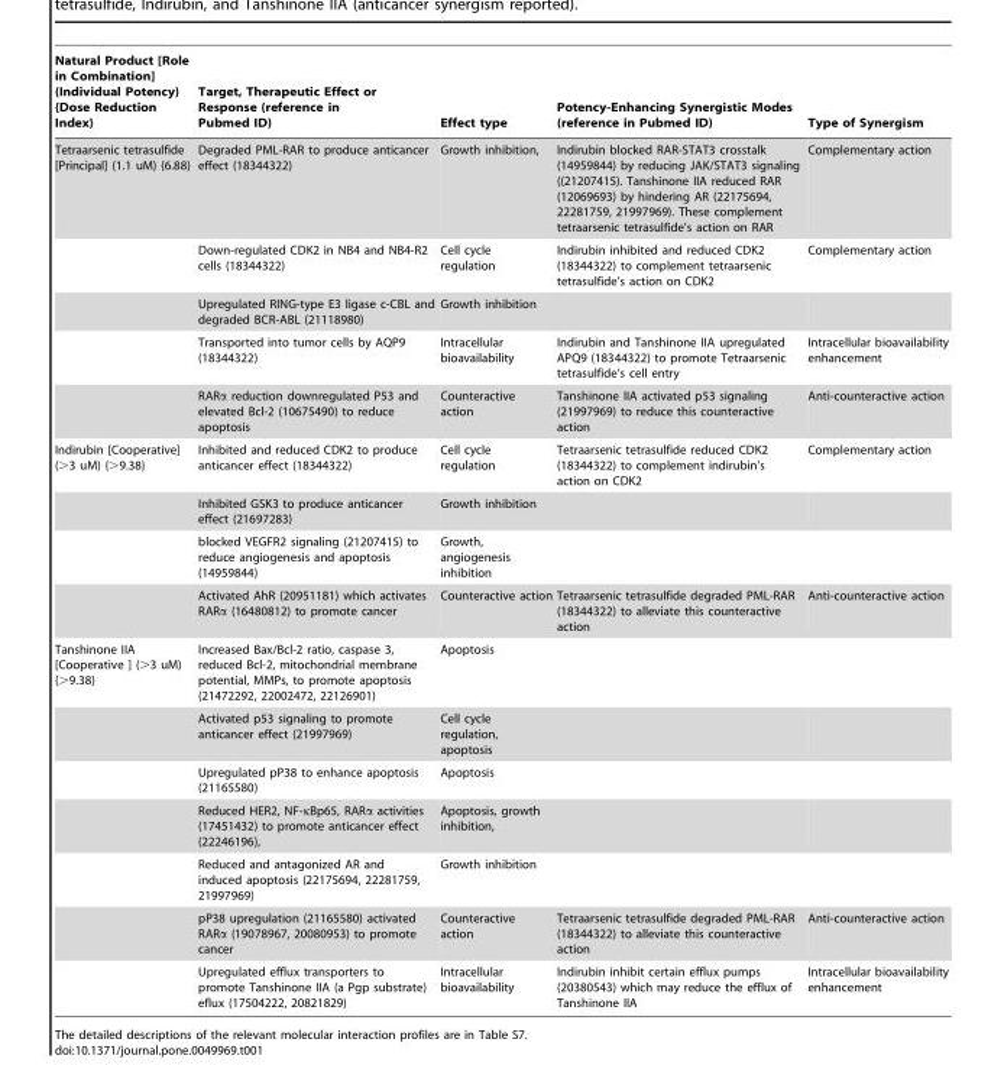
<table><thead><tr><td>Natural Product [Role in Combination] (Individual Potency) {Dose Reduction Index}</td><td>Target, Therapeutic Effect or Response (reference in Pubmed ID)</td><td>Effect type</td><td>Potency-Enhancing Synergistic Modes (reference in Pubmed ID)</td><td>Type of Synergism</td></tr></thead><tbody><tr><td rowspan="5">Tetraarsenic tetrasulfide [Principal] (1.1 uM) {6.88}</td><td>Degraded PML-RAR to produce anticancer effect (18344322)</td><td>Growth inhibition,</td><td>Indirubin blocked RAR-STAT3 crosstalk (14959844) by reducing JAK/STAT3 signaling ((21207415). Tanshinone IIA reduced RAR (12069693) by hindering AR (22175694, 22281759, 21997969). These complement tetraarsenic tetrasulfide’s action on RAR</td><td>Complementary action</td></tr><tr><td>Down-regulated CDK2 in NB4 and NB4-R2 cells (18344322)</td><td>Cell cycle regulation</td><td>Indirubin inhibited and reduced CDK2 (18344322) to complement tetraarsenic tetrasulfide’s action on CDK2</td><td>Complementary action</td></tr><tr><td>Upregulated RING-type E3 ligase c-CBL and degraded BCR-ABL (21118980)</td><td>Growth inhibition</td><td></td><td></td></tr><tr><td>Transported into tumor cells by AQP9 (18344322)</td><td>Intracellular bioavailability</td><td>Indirubin and Tanshinone IIA upregulated APQ9 (18344322) to promote Tetraarsenic tetrasulfide’s cell entry</td><td>Intracellular bioavailability enhancement</td></tr><tr><td>RARα reduction downregulated P53 and elevated Bcl-2 (10675490) to reduce apoptosis</td><td>Counteractive action</td><td>Tanshinone IIA activated p53 signaling (21997969) to reduce this counteractive action</td><td>Anti-counteractive action</td></tr><tr><td rowspan="4">Indirubin [Cooperative] (&gt;3 uM) {&gt;9.38}</td><td>Inhibited and reduced CDK2 to produce anticancer effect (18344322)</td><td>Cell cycle regulation</td><td>Tetraarsenic tetrasulfide reduced CDK2 (18344322) to complement indirubin’s action on CDK2</td><td>Complementary action</td></tr><tr><td>Inhibited GSK3 to produce anticancer effect (21697283)</td><td>Growth inhibition</td><td></td><td></td></tr><tr><td>blocked VEGFR2 signaling (21207415) to reduce angiogenesis and apoptosis (14959844)</td><td>Growth, angiogenesis inhibition</td><td></td><td></td></tr><tr><td>Activated AhR (20951181) which activates RARα (16480812) to promote cancer</td><td>Counteractive action</td><td>Tetraarsenic tetrasulfide degraded PML-RAR (18344322) to alleviate this counteractive action</td><td>Anti-counteractive action</td></tr><tr><td rowspan="7">Tanshinone IIA [Cooperative ] (&gt;3 uM) {&gt;9.38}</td><td>Increased Bax/Bcl-2 ratio, caspase 3, reduced Bcl-2, mitochondrial membrane potential, MMPs, to promote apoptosis (21472292, 22002472, 22126901)</td><td>Apoptosis</td><td></td><td></td></tr><tr><td>Activated p53 signaling to promote anticancer effect (21997969)</td><td>Cell cycle regulation, apoptosis</td><td></td><td></td></tr><tr><td>Upregulated pP38 to enhance apoptosis (21165580)</td><td>Apoptosis</td><td></td><td></td></tr><tr><td>Reduced HER2, NF-κBp65, RARα activities (17451432) to promote anticancer effect (22246196),</td><td>Apoptosis, growth inhibition,</td><td></td><td></td></tr><tr><td>Reduced and antagonized AR and induced apoptosis (22175694, 22281759, 21997969)</td><td>Growth inhibition</td><td></td><td></td></tr><tr><td>pP38 upregulation (21165580) activated RARα (19078967, 20080953) to promote cancer</td><td>Counteractive action</td><td>Tetraarsenic tetrasulfide degraded PML-RAR (18344322) to alleviate this counteractive action</td><td>Anti-counteractive action</td></tr><tr><td>Upregulated efflux transporters to promote Tanshinone IIA (a Pgp substrate) eflux (17504222, 20821829)</td><td>Intracellular bioavailability</td><td>Indirubin inhibit certain efflux pumps (20380543) which may reduce the efflux of Tanshinone IIA</td><td>Intracellular bioavailability enhancement</td></tr></tbody></table>